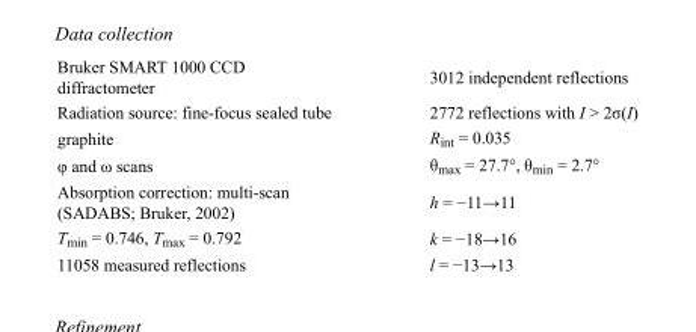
<table><tbody><tr><td>Bruker SMART 1000 CCD diffractometer</td><td>3012 independent reflections</td></tr><tr><td>Radiation source: fine-focus sealed tube</td><td>2772 reflections with I &gt; 2σ(I)</td></tr><tr><td>graphite</td><td>R<sub>int</sub> = 0.035</td></tr><tr><td>φ and ω scans</td><td>θ<sub>max</sub> = 27.7°, θ<sub>min</sub> = 2.7°</td></tr><tr><td>Absorption correction: multi-scan (SADABS; Bruker, 2002)</td><td>h = −11→11</td></tr><tr><td>T<sub>min</sub> = 0.746, T<sub>max</sub> = 0.792</td><td>k = −18→16</td></tr><tr><td>11058 measured reflections</td><td>l = −13→13</td></tr></tbody></table>